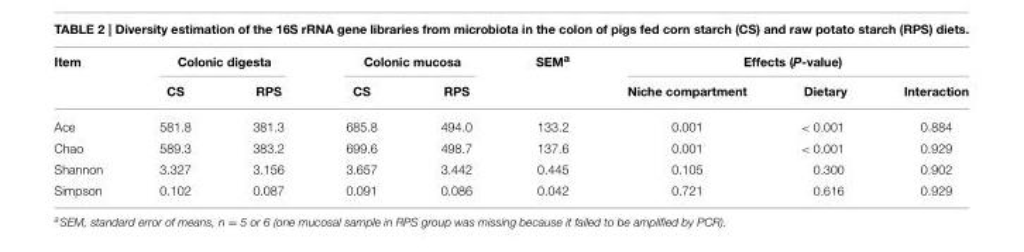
<table><thead><tr><td rowspan="2">Item</td><td colspan="2">Colonic digesta</td><td colspan="2">Colonic mucosa</td><td rowspan="2">SEM<sup>a</sup></td><td colspan="3">Effects (P-value)</td></tr><tr><td>CS</td><td>RPS</td><td>CS</td><td>RPS</td><td>Niche compartment</td><td>Dietary</td><td>Interaction</td></tr></thead><tbody><tr><td>Ace</td><td>581.8</td><td>381.3</td><td>685.8</td><td>494.0</td><td>133.2</td><td>0.001</td><td>&lt; 0.001</td><td>0.884</td></tr><tr><td>Chao</td><td>589.3</td><td>383.2</td><td>699.6</td><td>498.7</td><td>137.6</td><td>0.001</td><td>&lt; 0.001</td><td>0.929</td></tr><tr><td>Shannon</td><td>3.327</td><td>3.156</td><td>3.657</td><td>3.442</td><td>0.445</td><td>0.105</td><td>0.300</td><td>0.902</td></tr><tr><td>Simpson</td><td>0.102</td><td>0.087</td><td>0.091</td><td>0.086</td><td>0.042</td><td>0.721</td><td>0.616</td><td>0.929</td></tr></tbody></table>